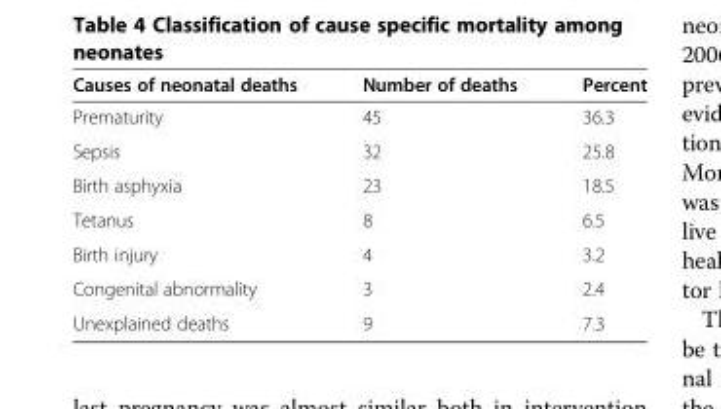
<table><thead><tr><td>Causes of neonatal deaths</td><td>Number of deaths</td><td>Percent</td></tr></thead><tbody><tr><td>Prematurity</td><td>45</td><td>36.3</td></tr><tr><td>Sepsis</td><td>32</td><td>25.8</td></tr><tr><td>Birth asphyxia</td><td>23</td><td>18.5</td></tr><tr><td>Tetanus</td><td>8</td><td>6.5</td></tr><tr><td>Birth injury</td><td>4</td><td>3.2</td></tr><tr><td>Congenital abnormality</td><td>3</td><td>2.4</td></tr><tr><td>Unexplained deaths</td><td>9</td><td>7.3</td></tr></tbody></table>